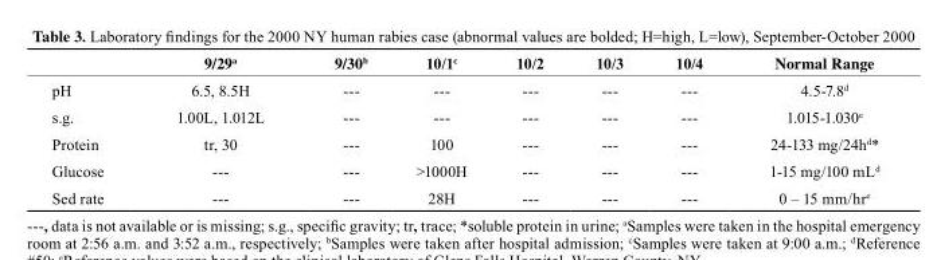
<table><thead><tr><td></td><td>9/29<sup>a</sup></td><td>9/30<sup>b</sup></td><td>10/1<sup>c</sup></td><td>10/2</td><td>10/3</td><td>10/4</td><td>Normal range</td></tr></thead><tbody><tr><td>pH</td><td>6.5, 8.5H</td><td>---</td><td>---</td><td>---</td><td>---</td><td>---</td><td>4.5-7.8<sup>d</sup></td></tr><tr><td>s.g.</td><td>1.00L, 1.012L</td><td>---</td><td>---</td><td>---</td><td>---</td><td>---</td><td>1.015-1.030<sup>e</sup></td></tr><tr><td>Protein</td><td>tr, 30</td><td>---</td><td>100</td><td>---</td><td>---</td><td>---</td><td>24-133 mg/24h<sup>d</sup>*</td></tr><tr><td>Glucose</td><td>---</td><td>---</td><td>&gt;1000H</td><td>---</td><td>---</td><td>---</td><td>1-15 mg/100 mL<sup>d</sup></td></tr><tr><td>Sed rate</td><td>---</td><td>---</td><td>28H</td><td>---</td><td>---</td><td>---</td><td>0 – 15 mm/hr<sup>e</sup></td></tr></tbody></table>